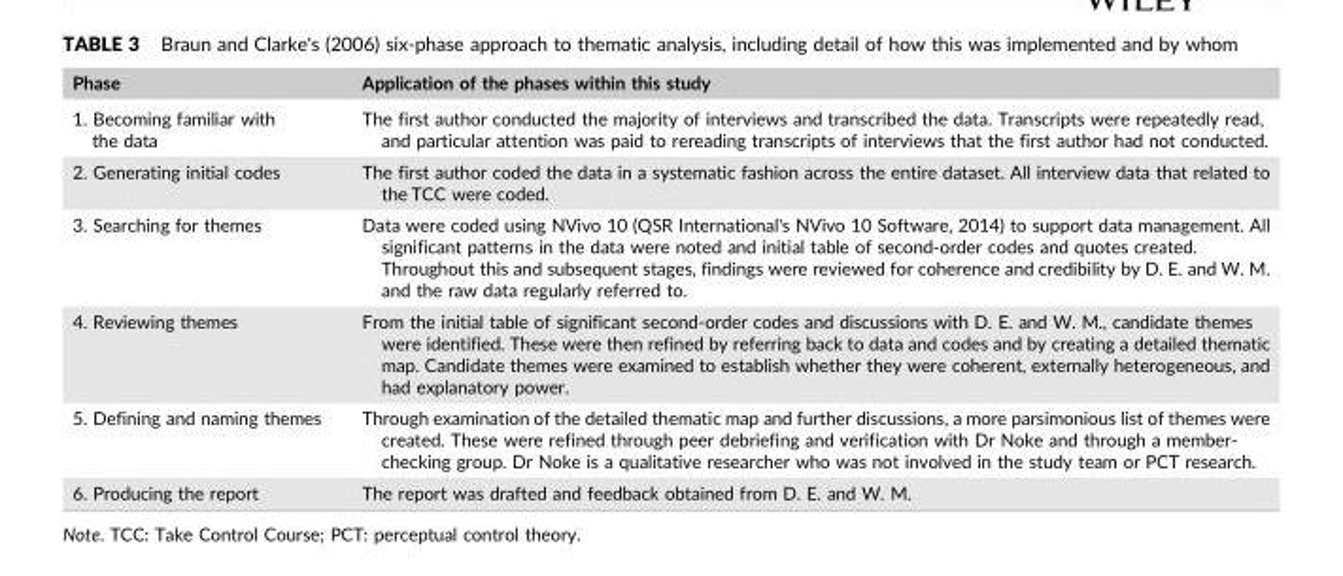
<table><thead><tr><td>Phase</td><td>Application of the phases within this study</td></tr></thead><tbody><tr><td>1. Becoming familiar with the data</td><td>The first author conducted the majority of interviews and transcribed the data. Transcripts were repeatedly read, and particular attention was paid to rereading transcripts of interviews that the first author had not conducted.</td></tr><tr><td>2. Generating initial codes</td><td>The first author coded the data in a systematic fashion across the entire dataset. All interview data that related to the TCC were coded.</td></tr><tr><td>3. Searching for themes</td><td>Data were coded using NVivo 10 (QSR International&#x27;s NVivo 10 Software, 2014) to support data management. All significant patterns in the data were noted and initial table of second‐order codes and quotes created. Throughout this and subsequent stages, findings were reviewed for coherence and credibility by D. E. and W. M. and the raw data regularly referred to.</td></tr><tr><td>4. Reviewing themes</td><td>From the initial table of significant second‐order codes and discussions with D. E. and W. M., candidate themes were identified. These were then refined by referring back to data and codes and by creating a detailed thematic map. Candidate themes were examined to establish whether they were coherent, externally heterogeneous, and had explanatory power.</td></tr><tr><td>5. Defining and naming themes</td><td>Through examination of the detailed thematic map and further discussions, a more parsimonious list of themes were created. These were refined through peer debriefing and verification with Dr Noke and through a member‐ checking group. Dr Noke is a qualitative researcher who was not involved in the study team or PCT research.</td></tr><tr><td>6. Producing the report</td><td>The report was drafted and feedback obtained from D. E. and W. M.</td></tr></tbody></table>